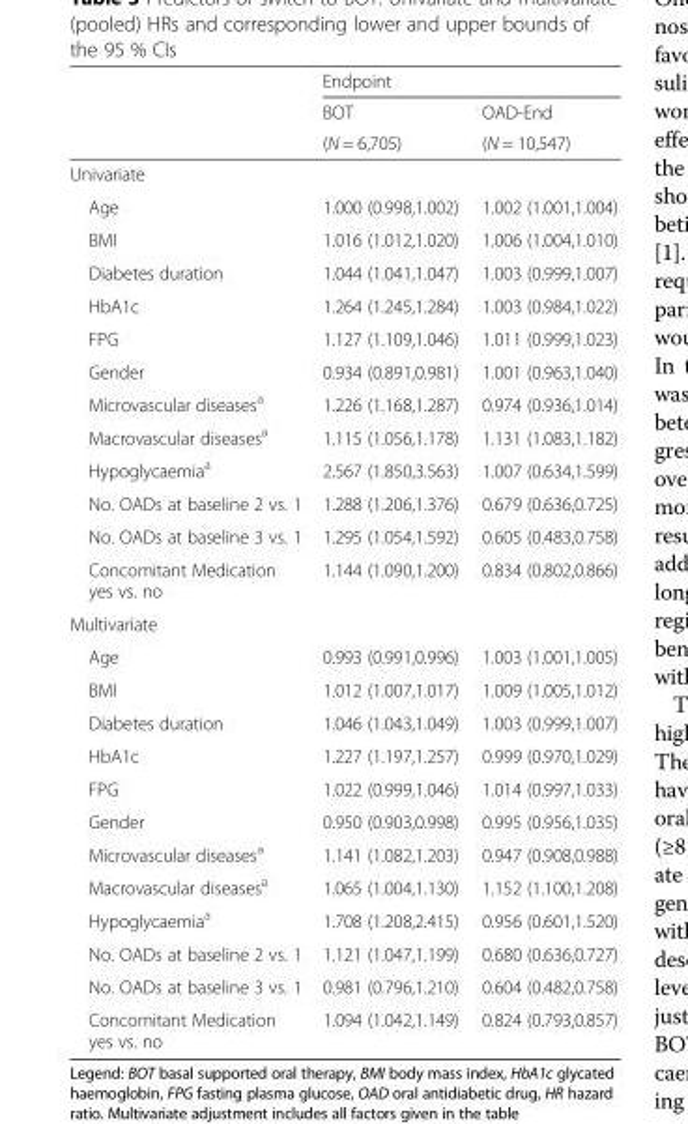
<table><thead><tr><td rowspan="3"></td><td colspan="2">Endpoint</td></tr><tr><td rowspan="2">BOT (N = 6,705)</td><td rowspan="2">OAD-End (N = 10,547)</td></tr><tr></tr></thead><tbody><tr><td colspan="3">Univariate</td></tr><tr><td>Age</td><td>1.000 (0.998,1.002)</td><td>1.002 (1.001,1.004)</td></tr><tr><td>BMI</td><td>1.016 (1.012,1.020)</td><td>1.006 (1.004,1.010)</td></tr><tr><td>Diabetes duration</td><td>1.044 (1.041,1.047)</td><td>1.003 (0.999,1.007)</td></tr><tr><td>HbA1c</td><td>1.264 (1.245,1.284)</td><td>1.003 (0.984,1.022)</td></tr><tr><td>FPG</td><td>1.127 (1.109,1.046)</td><td>1.011 (0.999,1.023)</td></tr><tr><td>Gender</td><td>0.934 (0.891,0.981)</td><td>1.001 (0.963,1.040)</td></tr><tr><td>Microvascular diseases<sup>a</sup></td><td>1.226 (1.168,1.287)</td><td>0.974 (0.936,1.014)</td></tr><tr><td>Macrovascular diseases<sup>a</sup></td><td>1.115 (1.056,1.178)</td><td>1.131 (1.083,1.182)</td></tr><tr><td>Hypoglycaemia<sup>a</sup></td><td>2.567 (1.850,3.563)</td><td>1.007 (0.634,1.599)</td></tr><tr><td>No. OADs at baseline 2 vs. 1</td><td>1.288 (1.206,1.376)</td><td>0.679 (0.636,0.725)</td></tr><tr><td>No. OADs at baseline 3 vs. 1</td><td>1.295 (1.054,1.592)</td><td>0.605 (0.483,0.758)</td></tr><tr><td>Concomitant Medication yes vs. no</td><td>1.144 (1.090,1.200)</td><td>0.834 (0.802,0.866)</td></tr><tr><td colspan="3">Multivariate</td></tr><tr><td>Age</td><td>0.993 (0.991,0.996)</td><td>1.003 (1.001,1.005)</td></tr><tr><td>BMI</td><td>1.012 (1.007,1.017)</td><td>1.009 (1.005,1.012)</td></tr><tr><td>Diabetes duration</td><td>1.046 (1.043,1.049)</td><td>1.003 (0.999,1.007)</td></tr><tr><td>HbA1c</td><td>1.227 (1.197,1.257)</td><td>0.999 (0.970,1.029)</td></tr><tr><td>FPG</td><td>1.022 (0.999,1.046)</td><td>1.014 (0.997,1.033)</td></tr><tr><td>Gender</td><td>0.950 (0.903,0.998)</td><td>0.995 (0.956,1.035)</td></tr><tr><td>Microvascular diseases<sup>a</sup></td><td>1.141 (1.082,1.203)</td><td>0.947 (0.908,0.988)</td></tr><tr><td>Macrovascular diseases<sup>a</sup></td><td>1.065 (1.004,1.130)</td><td>1.152 (1.100,1.208)</td></tr><tr><td>Hypoglycaemia<sup>a</sup></td><td>1.708 (1.208,2.415)</td><td>0.956 (0.601,1.520)</td></tr><tr><td>No. OADs at baseline 2 vs. 1</td><td>1.121 (1.047,1.199)</td><td>0.680 (0.636,0.727)</td></tr><tr><td>No. OADs at baseline 3 vs. 1</td><td>0.981 (0.796,1.210)</td><td>0.604 (0.482,0.758)</td></tr><tr><td>Concomitant Medication yes vs. no</td><td>1.094 (1.042,1.149)</td><td>0.824 (0.793,0.857)</td></tr></tbody></table>